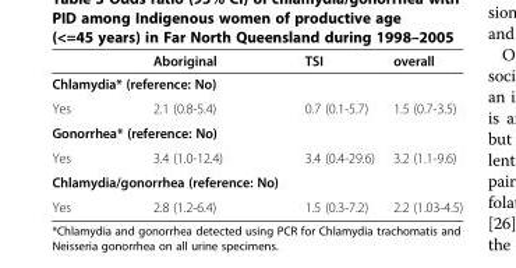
<table><thead><tr><td></td><td>Aboriginal</td><td>TSI</td><td>overall</td></tr></thead><tbody><tr><td colspan="4">Chlamydia* (reference: No)</td></tr><tr><td>Yes</td><td>2.1 (0.8-5.4)</td><td>0.7 (0.1-5.7)</td><td>1.5 (0.7-3.5)</td></tr><tr><td colspan="4">Gonorrhea* (reference: No)</td></tr><tr><td>Yes</td><td>3.4 (1.0-12.4)</td><td>3.4 (0.4-29.6)</td><td>3.2 (1.1-9.6)</td></tr><tr><td colspan="4">Chlamydia/gonorrhea (reference: No)</td></tr><tr><td>Yes</td><td>2.8 (1.2-6.4)</td><td>1.5 (0.3-7.2)</td><td>2.2 (1.03-4.5)</td></tr></tbody></table>